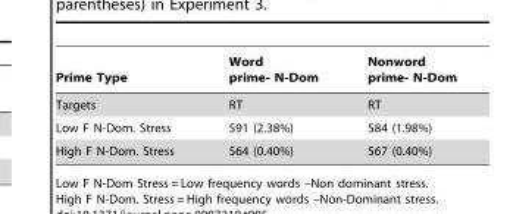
<table><thead><tr><td>Prime Type</td><td>Word prime- N-Dom</td><td>Nonword prime- N-Dom</td></tr></thead><tbody><tr><td>Targets</td><td>RT</td><td>RT</td></tr><tr><td>Low F N-Dom. Stress</td><td>591 (2.38%)</td><td>584 (1.98%)</td></tr><tr><td>High F N-Dom. Stress</td><td>564 (0.40%)</td><td>567 (0.40%)</td></tr></tbody></table>